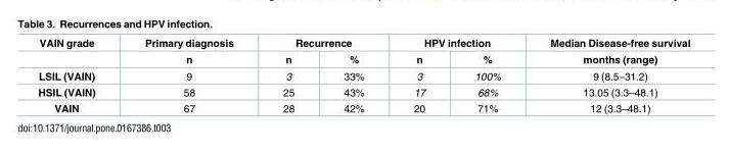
<table><thead><tr><td rowspan="2">VAIN grade</td><td rowspan="2">Primary diagnosis n</td><td colspan="2">Recurrence</td><td colspan="2">HPV infection</td><td rowspan="2">Median Disease-free survival months (range)</td></tr><tr><td>n</td><td>%</td><td>n</td><td>%</td></tr></thead><tbody><tr><td>LSIL (VAIN)</td><td>9</td><td>3</td><td>33%</td><td>3</td><td>100%</td><td>9 (8.5–31.2)</td></tr><tr><td>HSIL (VAIN)</td><td>58</td><td>25</td><td>43%</td><td>17</td><td>68%</td><td>13.05 (3.3–48.1)</td></tr><tr><td>VAIN</td><td>67</td><td>28</td><td>42%</td><td>20</td><td>71%</td><td>12 (3.3–48.1)</td></tr></tbody></table>